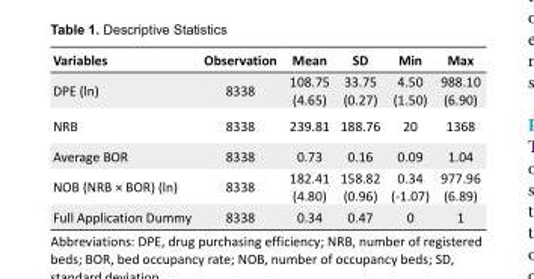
<table><tbody><tr><td>Variables</td><td>Observation</td><td>Mean</td><td>SD</td><td>Min</td><td>Max</td></tr><tr><td>DPE (ln)</td><td>8338</td><td>108.75 (4.65)</td><td>33.75 (0.27)</td><td>4.50 (1.50)</td><td>988.10 (6.90)</td></tr><tr><td>NRB</td><td>8338</td><td>239.81</td><td>188.76</td><td>20</td><td>1368</td></tr><tr><td>Average BOR</td><td>8338</td><td>0.73</td><td>0.16</td><td>0.09</td><td>1.04</td></tr><tr><td>NOB (NRB × BOR) (ln)</td><td>8338</td><td>182.41 (4.80)</td><td>158.82 (0.96)</td><td>0.34 (-1.07)</td><td>977.96 (6.89)</td></tr><tr><td>Full Application Dummy</td><td>8338</td><td>0.34</td><td>0.47</td><td>0</td><td>1</td></tr></tbody></table>